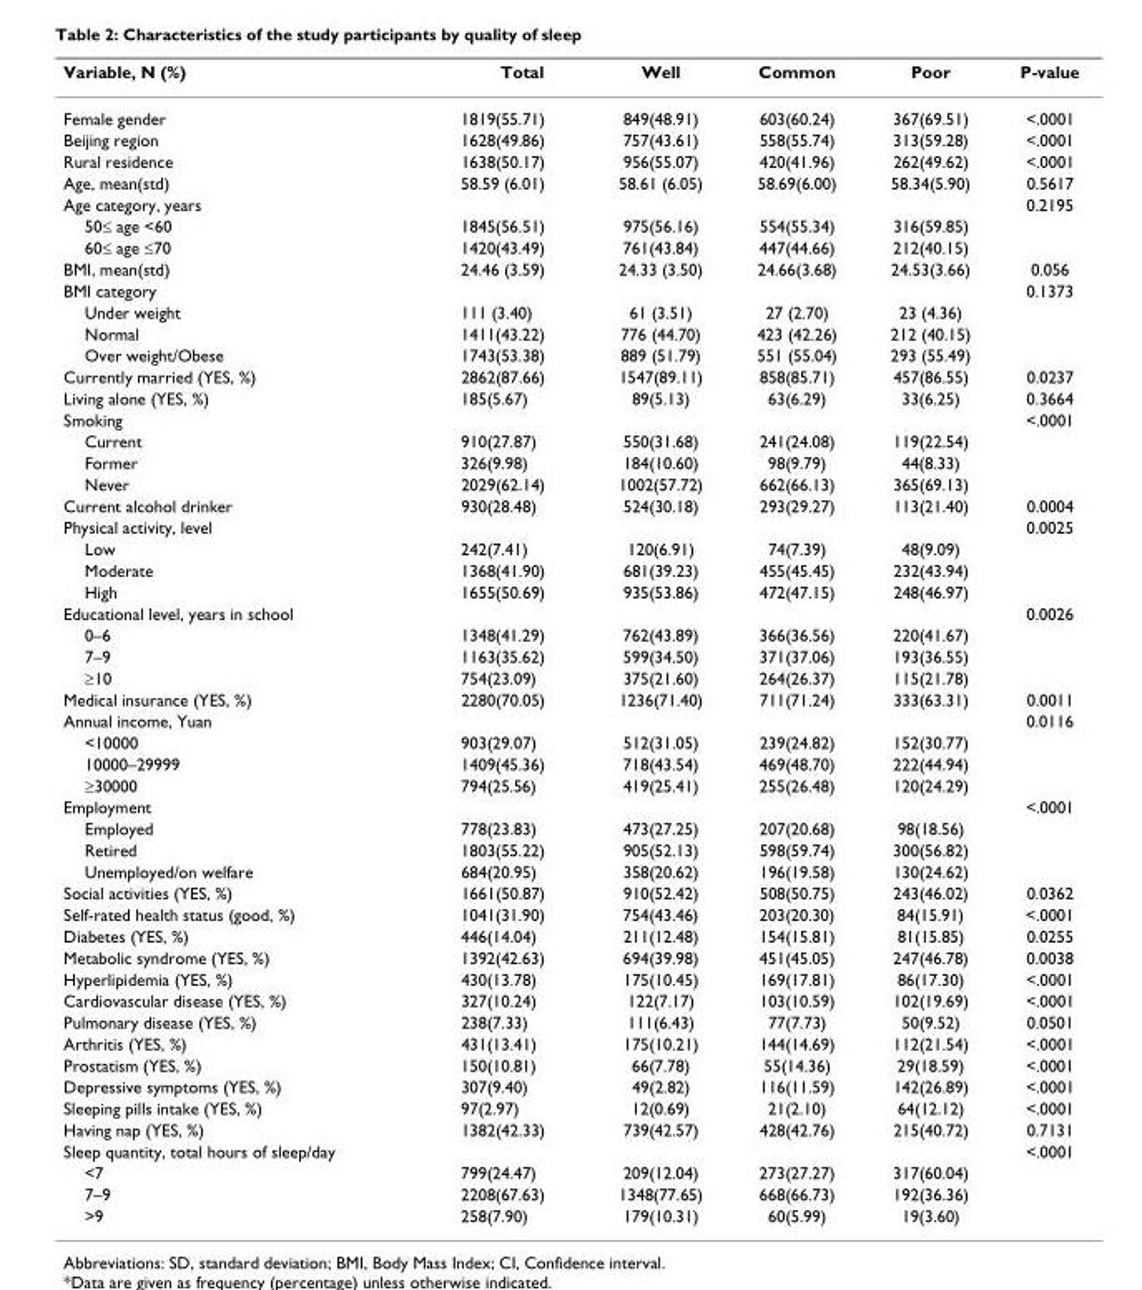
<table><thead><tr><td>Variable, N (%)</td><td>Total</td><td>Well</td><td>Common</td><td>Poor</td><td>P-value</td></tr></thead><tbody><tr><td>Female gender</td><td>1819(55.71)</td><td>849(48.91)</td><td>603(60.24)</td><td>367(69.51)</td><td>&lt;.0001</td></tr><tr><td>Beijing region</td><td>1628(49.86)</td><td>757(43.61)</td><td>558(55.74)</td><td>313(59.28)</td><td>&lt;.0001</td></tr><tr><td>Rural residence</td><td>1638(50.17)</td><td>956(55.07)</td><td>420(41.96)</td><td>262(49.62)</td><td>&lt;.0001</td></tr><tr><td>Age, mean(std)</td><td>58.59 (6.01)</td><td>58.61 (6.05)</td><td>58.69(6.00)</td><td>58.34(5.90)</td><td>0.5617</td></tr><tr><td>Age category, years</td><td></td><td></td><td></td><td></td><td>0.2195</td></tr><tr><td>50≤ age &lt;60</td><td>1845(56.51)</td><td>975(56.16)</td><td>554(55.34)</td><td>316(59.85)</td><td></td></tr><tr><td>60≤ age ≤70</td><td>1420(43.49)</td><td>761(43.84)</td><td>447(44.66)</td><td>212(40.15)</td><td></td></tr><tr><td>BMI, mean(std)</td><td>24.46 (3.59)</td><td>24.33 (3.50)</td><td>24.66(3.68)</td><td>24.53(3.66)</td><td>0.056</td></tr><tr><td>BMI category</td><td></td><td></td><td></td><td></td><td>0.1373</td></tr><tr><td>Under weight</td><td>111 (3.40)</td><td>61 (3.51)</td><td>27 (2.70)</td><td>23 (4.36)</td><td></td></tr><tr><td>Normal</td><td>1411(43.22)</td><td>776 (44.70)</td><td>423 (42.26)</td><td>212 (40.15)</td><td></td></tr><tr><td>Over weight/Obese</td><td>1743(53.38)</td><td>889 (51.79)</td><td>551 (55.04)</td><td>293 (55.49)</td><td></td></tr><tr><td>Currently married (YES, %)</td><td>2862(87.66)</td><td>1547(89.11)</td><td>858(85.71)</td><td>457(86.55)</td><td>0.0237</td></tr><tr><td>Living alone (YES, %)</td><td>185(5.67)</td><td>89(5.13)</td><td>63(6.29)</td><td>33(6.25)</td><td>0.3664</td></tr><tr><td>Smoking</td><td></td><td></td><td></td><td></td><td>&lt;.0001</td></tr><tr><td>Current</td><td>910(27.87)</td><td>550(31.68)</td><td>241(24.08)</td><td>119(22.54)</td><td></td></tr><tr><td>Former</td><td>326(9.98)</td><td>184(10.60)</td><td>98(9.79)</td><td>44(8.33)</td><td></td></tr><tr><td>Never</td><td>2029(62.14)</td><td>1002(57.72)</td><td>662(66.13)</td><td>365(69.13)</td><td></td></tr><tr><td>Current alcohol drinker</td><td>930(28.48)</td><td>524(30.18)</td><td>293(29.27)</td><td>113(21.40)</td><td>0.0004</td></tr><tr><td>Physical activity, level</td><td></td><td></td><td></td><td></td><td>0.0025</td></tr><tr><td>Low</td><td>242(7.41)</td><td>120(6.91)</td><td>74(7.39)</td><td>48(9.09)</td><td></td></tr><tr><td>Moderate</td><td>1368(41.90)</td><td>681(39.23)</td><td>455(45.45)</td><td>232(43.94)</td><td></td></tr><tr><td>High</td><td>1655(50.69)</td><td>935(53.86)</td><td>472(47.15)</td><td>248(46.97)</td><td></td></tr><tr><td>Educational level, years in school</td><td></td><td></td><td></td><td></td><td>0.0026</td></tr><tr><td>0–6</td><td>1348(41.29)</td><td>762(43.89)</td><td>366(36.56)</td><td>220(41.67)</td><td></td></tr><tr><td>7–9</td><td>1163(35.62)</td><td>599(34.50)</td><td>371(37.06)</td><td>193(36.55)</td><td></td></tr><tr><td>≥10</td><td>754(23.09)</td><td>375(21.60)</td><td>264(26.37)</td><td>115(21.78)</td><td></td></tr><tr><td>Medical insurance (YES, %)</td><td>2280(70.05)</td><td>1236(71.40)</td><td>711(71.24)</td><td>333(63.31)</td><td>0.0011</td></tr><tr><td>Annual income, Yuan</td><td></td><td></td><td></td><td></td><td>0.0116</td></tr><tr><td>&lt;10000</td><td>903(29.07)</td><td>512(31.05)</td><td>239(24.82)</td><td>152(30.77)</td><td></td></tr><tr><td>10000–29999</td><td>1409(45.36)</td><td>718(43.54)</td><td>469(48.70)</td><td>222(44.94)</td><td></td></tr><tr><td>≥30000</td><td>794(25.56)</td><td>419(25.41)</td><td>255(26.48)</td><td>120(24.29)</td><td></td></tr><tr><td>Employment</td><td></td><td></td><td></td><td></td><td>&lt;.0001</td></tr><tr><td>Employed</td><td>778(23.83)</td><td>473(27.25)</td><td>207(20.68)</td><td>98(18.56)</td><td></td></tr><tr><td>Retired</td><td>1803(55.22)</td><td>905(52.13)</td><td>598(59.74)</td><td>300(56.82)</td><td></td></tr><tr><td>Unemployed/on welfare</td><td>684(20.95)</td><td>358(20.62)</td><td>196(19.58)</td><td>130(24.62)</td><td></td></tr><tr><td>Social activities (YES, %)</td><td>1661(50.87)</td><td>910(52.42)</td><td>508(50.75)</td><td>243(46.02)</td><td>0.0362</td></tr><tr><td>Self-rated health status (good, %)</td><td>1041(31.90)</td><td>754(43.46)</td><td>203(20.30)</td><td>84(15.91)</td><td>&lt;.0001</td></tr><tr><td>Diabetes (YES, %)</td><td>446(14.04)</td><td>211(12.48)</td><td>154(15.81)</td><td>81(15.85)</td><td>0.0255</td></tr><tr><td>Metabolic syndrome (YES, %)</td><td>1392(42.63)</td><td>694(39.98)</td><td>451(45.05)</td><td>247(46.78)</td><td>0.0038</td></tr><tr><td>Hyperlipidemia (YES, %)</td><td>430(13.78)</td><td>175(10.45)</td><td>169(17.81)</td><td>86(17.30)</td><td>&lt;.0001</td></tr><tr><td>Cardiovascular disease (YES, %)</td><td>327(10.24)</td><td>122(7.17)</td><td>103(10.59)</td><td>102(19.69)</td><td>&lt;.0001</td></tr><tr><td>Pulmonary disease (YES, %)</td><td>238(7.33)</td><td>111(6.43)</td><td>77(7.73)</td><td>50(9.52)</td><td>0.0501</td></tr><tr><td>Arthritis (YES, %)</td><td>431(13.41)</td><td>175(10.21)</td><td>144(14.69)</td><td>112(21.54)</td><td>&lt;.0001</td></tr><tr><td>Prostatism (YES, %)</td><td>150(10.81)</td><td>66(7.78)</td><td>55(14.36)</td><td>29(18.59)</td><td>&lt;.0001</td></tr><tr><td>Depressive symptoms (YES, %)</td><td>307(9.40)</td><td>49(2.82)</td><td>116(11.59)</td><td>142(26.89)</td><td>&lt;.0001</td></tr><tr><td>Sleeping pills intake (YES, %)</td><td>97(2.97)</td><td>12(0.69)</td><td>21(2.10)</td><td>64(12.12)</td><td>&lt;.0001</td></tr><tr><td>Having nap (YES, %)</td><td>1382(42.33)</td><td>739(42.57)</td><td>428(42.76)</td><td>215(40.72)</td><td>0.7131</td></tr><tr><td>Sleep quantity, total hours of sleep/day</td><td></td><td></td><td></td><td></td><td>&lt;.0001</td></tr><tr><td>&lt;7</td><td>799(24.47)</td><td>209(12.04)</td><td>273(27.27)</td><td>317(60.04)</td><td></td></tr><tr><td>7–9</td><td>2208(67.63)</td><td>1348(77.65)</td><td>668(66.73)</td><td>192(36.36)</td><td></td></tr><tr><td>&gt;9</td><td>258(7.90)</td><td>179(10.31)</td><td>60(5.99)</td><td>19(3.60)</td><td></td></tr></tbody></table>